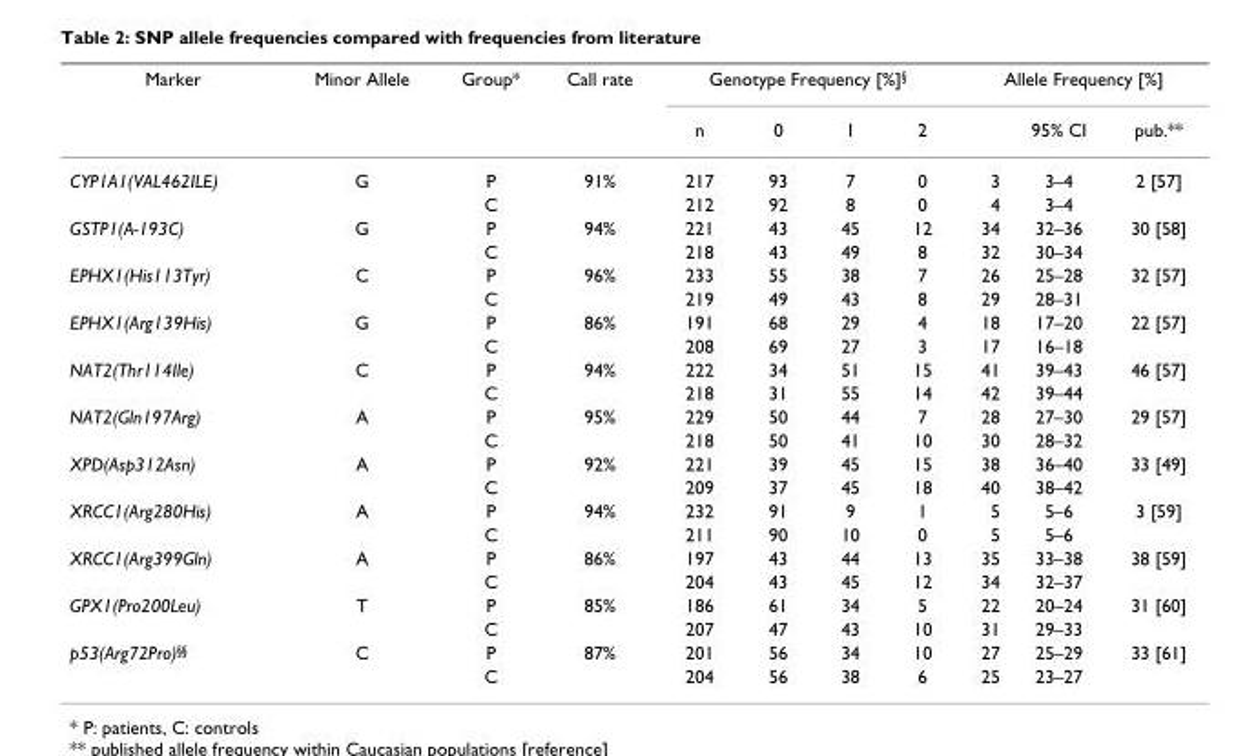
<table><thead><tr><td rowspan="2">Marker</td><td rowspan="2">Minor Allele</td><td rowspan="2">Group*</td><td rowspan="2">Call rate</td><td colspan="4">Genotype Frequency [%]<sup>§</sup></td><td colspan="3">Allele Frequency [%]</td></tr><tr><td>n</td><td>0</td><td>1</td><td>2</td><td></td><td>95% CI</td><td>pub.**</td></tr></thead><tbody><tr><td rowspan="2">CYP1A1(VAL462ILE)</td><td>G</td><td>P</td><td>91%</td><td>217</td><td>93</td><td>7</td><td>0</td><td>3</td><td>3–4</td><td>2 [57]</td></tr><tr><td></td><td>C</td><td></td><td>212</td><td>92</td><td>8</td><td>0</td><td>4</td><td>3–4</td><td></td></tr><tr><td rowspan="2">GSTP1(A-193C)</td><td>G</td><td>P</td><td>94%</td><td>221</td><td>43</td><td>45</td><td>12</td><td>34</td><td>32–36</td><td>30 [58]</td></tr><tr><td></td><td>C</td><td></td><td>218</td><td>43</td><td>49</td><td>8</td><td>32</td><td>30–34</td><td></td></tr><tr><td rowspan="2">EPHX1(His113Tyr)</td><td>C</td><td>P</td><td>96%</td><td>233</td><td>55</td><td>38</td><td>7</td><td>26</td><td>25–28</td><td>32 [57]</td></tr><tr><td></td><td>C</td><td></td><td>219</td><td>49</td><td>43</td><td>8</td><td>29</td><td>28–31</td><td></td></tr><tr><td rowspan="2">EPHX1(Arg139His)</td><td>G</td><td>P</td><td>86%</td><td>191</td><td>68</td><td>29</td><td>4</td><td>18</td><td>17–20</td><td>22 [57]</td></tr><tr><td></td><td>C</td><td></td><td>208</td><td>69</td><td>27</td><td>3</td><td>17</td><td>16–18</td><td></td></tr><tr><td rowspan="2">NAT2(Thr114Ile)</td><td>C</td><td>P</td><td>94%</td><td>222</td><td>34</td><td>51</td><td>15</td><td>41</td><td>39–43</td><td>46 [57]</td></tr><tr><td></td><td>C</td><td></td><td>218</td><td>31</td><td>55</td><td>14</td><td>42</td><td>39–44</td><td></td></tr><tr><td rowspan="2">NAT2(Gln197Arg)</td><td>A</td><td>P</td><td>95%</td><td>229</td><td>50</td><td>44</td><td>7</td><td>28</td><td>27–30</td><td>29 [57]</td></tr><tr><td></td><td>C</td><td></td><td>218</td><td>50</td><td>41</td><td>10</td><td>30</td><td>28–32</td><td></td></tr><tr><td rowspan="2">XPD(Asp312Asn)</td><td>A</td><td>P</td><td>92%</td><td>221</td><td>39</td><td>45</td><td>15</td><td>38</td><td>36–40</td><td>33 [49]</td></tr><tr><td></td><td>C</td><td></td><td>209</td><td>37</td><td>45</td><td>18</td><td>40</td><td>38–42</td><td></td></tr><tr><td rowspan="2">XRCC1(Arg280His)</td><td>A</td><td>P</td><td>94%</td><td>232</td><td>91</td><td>9</td><td>1</td><td>5</td><td>5–6</td><td>3 [59]</td></tr><tr><td></td><td>C</td><td></td><td>211</td><td>90</td><td>10</td><td>0</td><td>5</td><td>5–6</td><td></td></tr><tr><td rowspan="2">XRCC1(Arg399Gln)</td><td>A</td><td>P</td><td>86%</td><td>197</td><td>43</td><td>44</td><td>13</td><td>35</td><td>33–38</td><td>38 [59]</td></tr><tr><td></td><td>C</td><td></td><td>204</td><td>43</td><td>45</td><td>12</td><td>34</td><td>32–37</td><td></td></tr><tr><td rowspan="2">GPX1(Pro200Leu)</td><td>T</td><td>P</td><td>85%</td><td>186</td><td>61</td><td>34</td><td>5</td><td>22</td><td>20–24</td><td>31 [60]</td></tr><tr><td></td><td>C</td><td></td><td>207</td><td>47</td><td>43</td><td>10</td><td>31</td><td>29–33</td><td></td></tr><tr><td rowspan="2">p53(Arg72Pro)<sup>§§</sup></td><td>C</td><td>P</td><td>87%</td><td>201</td><td>56</td><td>34</td><td>10</td><td>27</td><td>25–29</td><td>33 [61]</td></tr><tr><td></td><td>C</td><td></td><td>204</td><td>56</td><td>38</td><td>6</td><td>25</td><td>23–27</td><td></td></tr></tbody></table>